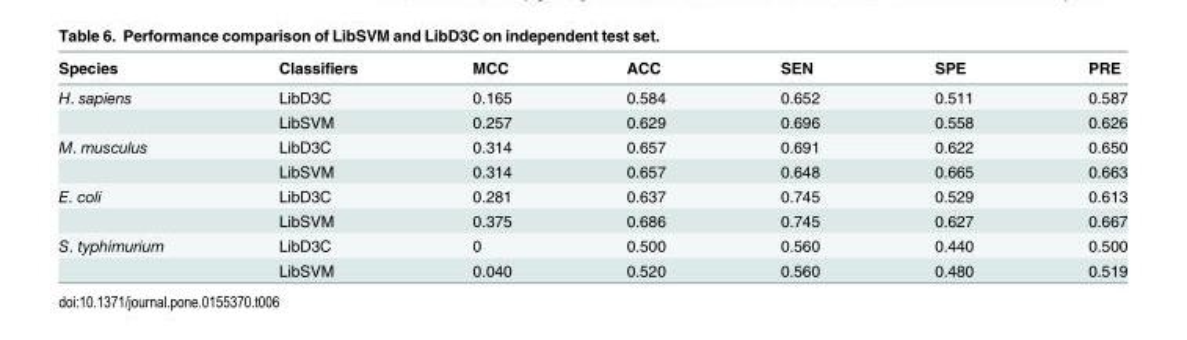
<table><thead><tr><td>Species</td><td>Classifiers</td><td>MCC</td><td>ACC</td><td>SEN</td><td>SPE</td><td>PRE</td></tr></thead><tbody><tr><td rowspan="2">H. sapiens</td><td>LibD3C</td><td>0.165</td><td>0.584</td><td>0.652</td><td>0.511</td><td>0.587</td></tr><tr><td>LibSVM</td><td>0.257</td><td>0.629</td><td>0.696</td><td>0.558</td><td>0.626</td></tr><tr><td rowspan="2">M. musculus</td><td>LibD3C</td><td>0.314</td><td>0.657</td><td>0.691</td><td>0.622</td><td>0.650</td></tr><tr><td>LibSVM</td><td>0.314</td><td>0.657</td><td>0.648</td><td>0.665</td><td>0.663</td></tr><tr><td rowspan="2">E. coli</td><td>LibD3C</td><td>0.281</td><td>0.637</td><td>0.745</td><td>0.529</td><td>0.613</td></tr><tr><td>LibSVM</td><td>0.375</td><td>0.686</td><td>0.745</td><td>0.627</td><td>0.667</td></tr><tr><td rowspan="2">S. typhimurium</td><td>LibD3C</td><td>0</td><td>0.500</td><td>0.560</td><td>0.440</td><td>0.500</td></tr><tr><td>LibSVM</td><td>0.040</td><td>0.520</td><td>0.560</td><td>0.480</td><td>0.519</td></tr></tbody></table>